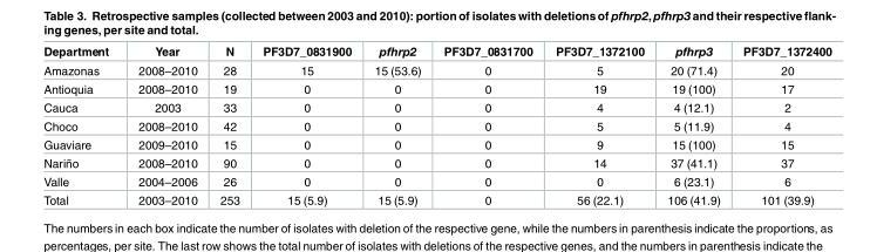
<table><thead><tr><td>Department</td><td>Year</td><td>N</td><td>PF3D7_0831900</td><td>pfhrp2</td><td>PF3D7_0831700</td><td>PF3D7_1372100</td><td>pfhrp3</td><td>PF3D7_1372400</td></tr></thead><tbody><tr><td>Amazonas</td><td>2008–2010</td><td>28</td><td>15</td><td>15 (53.6)</td><td>0</td><td>5</td><td>20 (71.4)</td><td>20</td></tr><tr><td>Antioquia</td><td>2008–2010</td><td>19</td><td>0</td><td>0</td><td>0</td><td>19</td><td>19 (100)</td><td>17</td></tr><tr><td>Cauca</td><td>2003</td><td>33</td><td>0</td><td>0</td><td>0</td><td>4</td><td>4 (12.1)</td><td>2</td></tr><tr><td>Choco</td><td>2008–2010</td><td>42</td><td>0</td><td>0</td><td>0</td><td>5</td><td>5 (11.9)</td><td>4</td></tr><tr><td>Guaviare</td><td>2009–2010</td><td>15</td><td>0</td><td>0</td><td>0</td><td>9</td><td>15 (100)</td><td>15</td></tr><tr><td>Nariño</td><td>2008–2010</td><td>90</td><td>0</td><td>0</td><td>0</td><td>14</td><td>37 (41.1)</td><td>37</td></tr><tr><td>Valle</td><td>2004–2006</td><td>26</td><td>0</td><td>0</td><td>0</td><td>0</td><td>6 (23.1)</td><td>6</td></tr><tr><td>Total</td><td>2003–2010</td><td>253</td><td>15 (5.9)</td><td>15 (5.9)</td><td>0</td><td>56 (22.1)</td><td>106 (41.9)</td><td>101 (39.9)</td></tr></tbody></table>